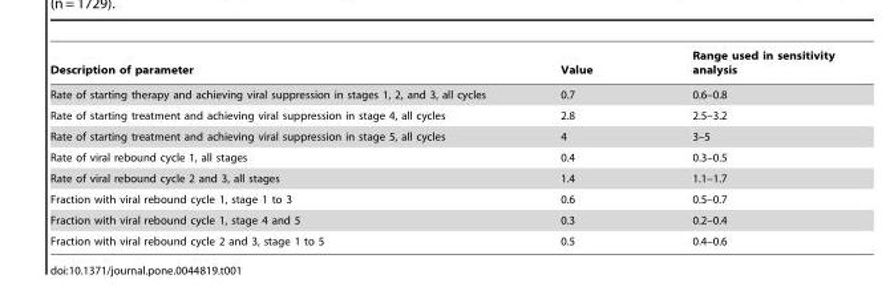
<table><thead><tr><td>Description of parameter</td><td>Value</td><td>Range used in sensitivity analysis</td></tr></thead><tbody><tr><td>Rate of starting therapy and achieving viral suppression in stages 1, 2, and 3, all cycles</td><td>0.7</td><td>0.6–0.8</td></tr><tr><td>Rate of starting treatment and achieving viral suppression in stage 4, all cycles</td><td>2.8</td><td>2.5–3.2</td></tr><tr><td>Rate of starting treatment and achieving viral suppression in stage 5, all cycles</td><td>4</td><td>3–5</td></tr><tr><td>Rate of viral rebound cycle 1, all stages</td><td>0.4</td><td>0.3–0.5</td></tr><tr><td>Rate of viral rebound cycle 2 and 3, all stages</td><td>1.4</td><td>1.1–1.7</td></tr><tr><td>Fraction with viral rebound cycle 1, stage 1 to 3</td><td>0.6</td><td>0.5–0.7</td></tr><tr><td>Fraction with viral rebound cycle 1, stage 4 and 5</td><td>0.3</td><td>0.2–0.4</td></tr><tr><td>Fraction with viral rebound cycle 2 and 3, stage 1 to 5</td><td>0.5</td><td>0.4–0.6</td></tr></tbody></table>